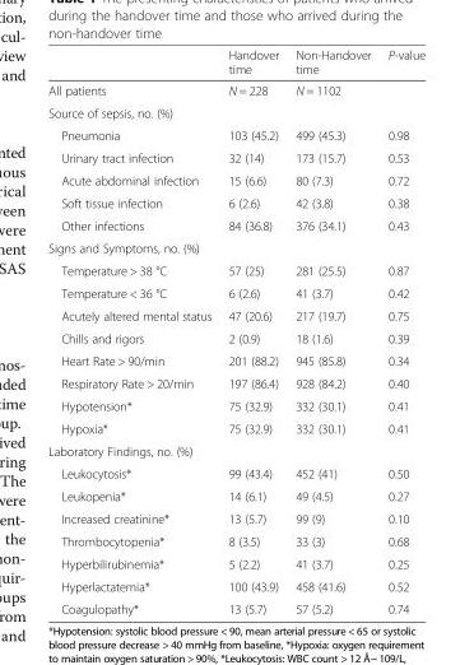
<table><thead><tr><td></td><td>Handover time</td><td>Non-Handover time</td><td>P-value</td></tr></thead><tbody><tr><td>All patients</td><td>N = 228</td><td>N = 1102</td><td></td></tr><tr><td colspan="4">Source of sepsis, no. (%)</td></tr><tr><td>Pneumonia</td><td>103 (45.2)</td><td>499 (45.3)</td><td>0.98</td></tr><tr><td>Urinary tract infection</td><td>32 (14)</td><td>173 (15.7)</td><td>0.53</td></tr><tr><td>Acute abdominal infection</td><td>15 (6.6)</td><td>80 (7.3)</td><td>0.72</td></tr><tr><td>Soft tissue infection</td><td>6 (2.6)</td><td>42 (3.8)</td><td>0.38</td></tr><tr><td>Other infections</td><td>84 (36.8)</td><td>376 (34.1)</td><td>0.43</td></tr><tr><td colspan="4">Signs and Symptoms, no. (%)</td></tr><tr><td>Temperature &gt; 38 °C</td><td>57 (25)</td><td>281 (25.5)</td><td>0.87</td></tr><tr><td>Temperature &lt; 36 °C</td><td>6 (2.6)</td><td>41 (3.7)</td><td>0.42</td></tr><tr><td>Acutely altered mental status</td><td>47 (20.6)</td><td>217 (19.7)</td><td>0.75</td></tr><tr><td>Chills and rigors</td><td>2 (0.9)</td><td>18 (1.6)</td><td>0.39</td></tr><tr><td>Heart Rate &gt; 90/min</td><td>201 (88.2)</td><td>945 (85.8)</td><td>0.34</td></tr><tr><td>Respiratory Rate &gt; 20/min</td><td>197 (86.4)</td><td>928 (84.2)</td><td>0.40</td></tr><tr><td>Hypotension*</td><td>75 (32.9)</td><td>332 (30.1)</td><td>0.41</td></tr><tr><td>Hypoxia*</td><td>75 (32.9)</td><td>332 (30.1)</td><td>0.41</td></tr><tr><td colspan="4">Laboratory Findings, no. (%)</td></tr><tr><td>Leukocytosis*</td><td>99 (43.4)</td><td>452 (41)</td><td>0.50</td></tr><tr><td>Leukopenia*</td><td>14 (6.1)</td><td>49 (4.5)</td><td>0.27</td></tr><tr><td>Increased creatinine*</td><td>13 (5.7)</td><td>99 (9)</td><td>0.10</td></tr><tr><td>Thrombocytopenia*</td><td>8 (3.5)</td><td>33 (3)</td><td>0.68</td></tr><tr><td>Hyperbilirubinemia*</td><td>5 (2.2)</td><td>41 (3.7)</td><td>0.25</td></tr><tr><td>Hyperlactatemia*</td><td>100 (43.9)</td><td>458 (41.6)</td><td>0.52</td></tr><tr><td>Coagulopathy*</td><td>13 (5.7)</td><td>57 (5.2)</td><td>0.74</td></tr></tbody></table>